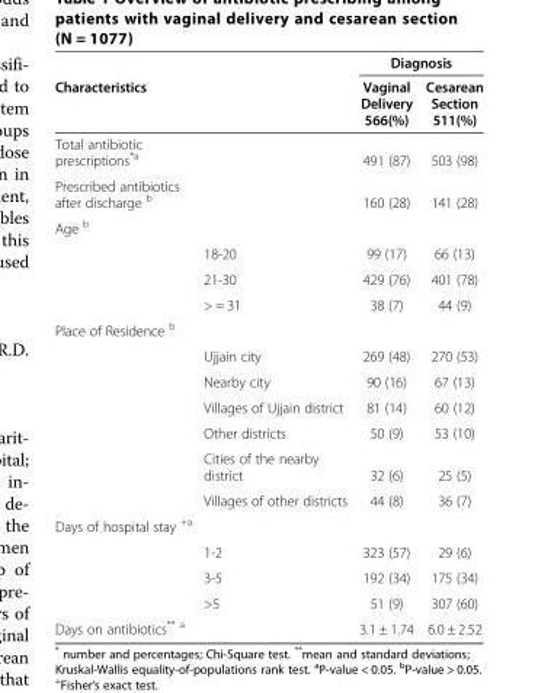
<table><thead><tr><td rowspan="2">Characteristics</td><td rowspan="2"></td><td colspan="2">Diagnosis</td></tr><tr><td>Vaginal Delivery 566(%)</td><td>Cesarean Section 511(%)</td></tr></thead><tbody><tr><td>Total antibiotic prescriptions<sup>*a</sup></td><td></td><td>491 (87)</td><td>503 (98)</td></tr><tr><td>Prescribed antibiotics after discharge <sup>b</sup></td><td></td><td>160 (28)</td><td>141 (28)</td></tr><tr><td colspan="4">Age <sup>b</sup></td></tr><tr><td></td><td>18-20</td><td>99 (17)</td><td>66 (13)</td></tr><tr><td></td><td>21-30</td><td>429 (76)</td><td>401 (78)</td></tr><tr><td></td><td>&gt; = 31</td><td>38 (7)</td><td>44 (9)</td></tr><tr><td colspan="4">Place of Residence <sup>b</sup></td></tr><tr><td></td><td>Ujjain city</td><td>269 (48)</td><td>270 (53)</td></tr><tr><td></td><td>Nearby city</td><td>90 (16)</td><td>67 (13)</td></tr><tr><td></td><td>Villages of Ujjain district</td><td>81 (14)</td><td>60 (12)</td></tr><tr><td></td><td>Other districts</td><td>50 (9)</td><td>53 (10)</td></tr><tr><td></td><td>Cities of the nearby district</td><td>32 (6)</td><td>25 (5)</td></tr><tr><td></td><td>Villages of other districts</td><td>44 (8)</td><td>36 (7)</td></tr><tr><td colspan="4">Days of hospital stay <sup>+a</sup></td></tr><tr><td></td><td>1-2</td><td>323 (57)</td><td>29 (6)</td></tr><tr><td></td><td>3-5</td><td>192 (34)</td><td>175 (34)</td></tr><tr><td></td><td>&gt;5</td><td>51 (9)</td><td>307 (60)</td></tr><tr><td>Days on antibiotics<sup>** a</sup></td><td></td><td>3.1 ± 1.74</td><td>6.0 ± 2.52</td></tr></tbody></table>